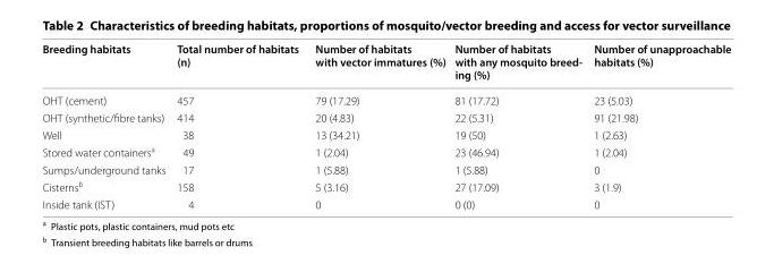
<table><thead><tr><td>Breeding habitats</td><td>Total number of habitats (n)</td><td>Number of habitats with vector immatures (%)</td><td>Number of habitats with any mosquito breed‑ ing (%)</td><td>Number of unapproachable habitats (%)</td></tr></thead><tbody><tr><td>OHT (cement)</td><td>457</td><td>79 (17.29)</td><td>81 (17.72)</td><td>23 (5.03)</td></tr><tr><td>OHT (synthetic/fibre tanks)</td><td>414</td><td>20 (4.83)</td><td>22 (5.31)</td><td>91 (21.98)</td></tr><tr><td>Well</td><td>38</td><td>13 (34.21)</td><td>19 (50)</td><td>1 (2.63)</td></tr><tr><td>Stored water containers<sup>a</sup></td><td>49</td><td>1 (2.04)</td><td>23 (46.94)</td><td>1 (2.04)</td></tr><tr><td>Sumps/underground tanks</td><td>17</td><td>1 (5.88)</td><td>1 (5.88)</td><td>0</td></tr><tr><td>Cisterns<sup>b</sup></td><td>158</td><td>5 (3.16)</td><td>27 (17.09)</td><td>3 (1.9)</td></tr><tr><td>Inside tank (IST)</td><td>4</td><td>0</td><td>0 (0)</td><td>0</td></tr></tbody></table>